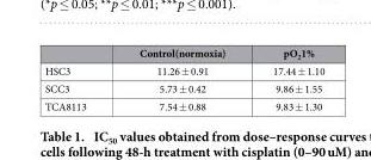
<table><thead><tr><td></td><td>Control(normoxia)</td><td>pO<sub>2</sub>1%</td></tr></thead><tbody><tr><td>HSC3</td><td>11.26 ± 0.91</td><td>17.44 ± 1.10</td></tr><tr><td>SCC3</td><td>5.73 ± 0.42</td><td>9.86 ± 1.55</td></tr><tr><td>TCA8113</td><td>7.54 ± 0.88</td><td>9.83 ± 1.30</td></tr></tbody></table>